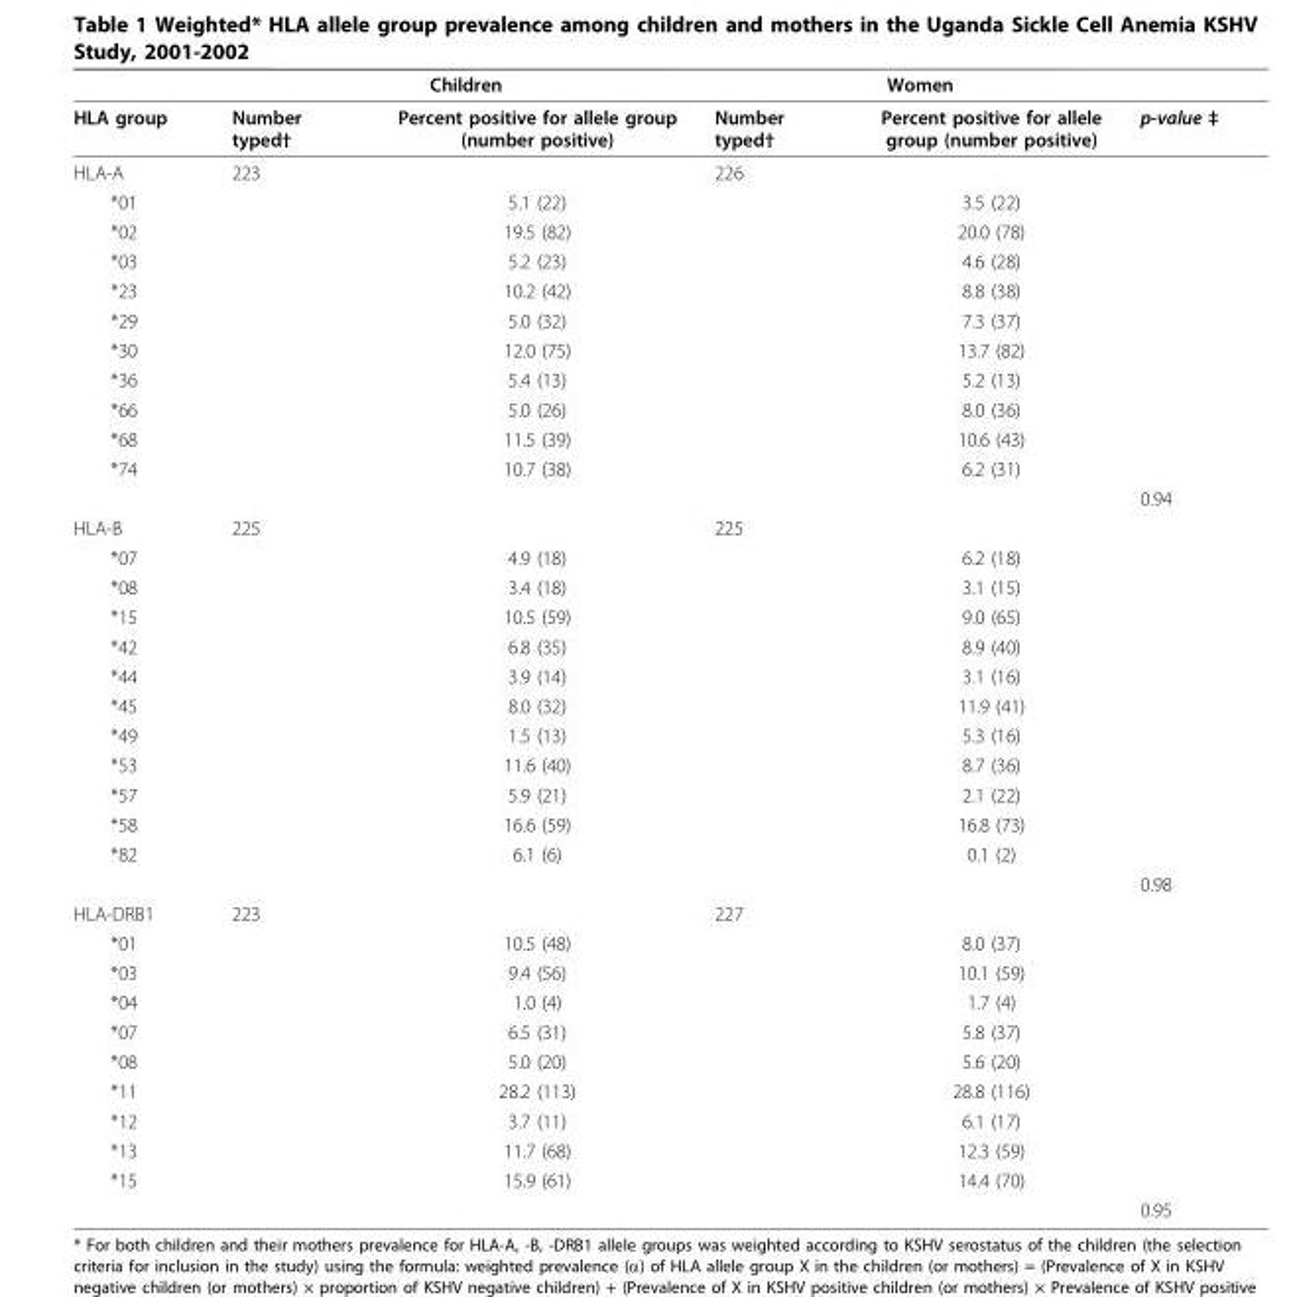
<table><thead><tr><td rowspan="2">HLA group</td><td colspan="2">Children</td><td colspan="2">Women</td><td rowspan="2">p-value ‡</td></tr><tr><td>Number typed†</td><td>Percent positive for allele group (number positive)</td><td>Number typed†</td><td>Percent positive for allele group (number positive)</td></tr></thead><tbody><tr><td>HLA-A</td><td>223</td><td></td><td>226</td><td></td><td></td></tr><tr><td>*01</td><td></td><td>5.1 (22)</td><td></td><td>3.5 (22)</td><td></td></tr><tr><td>*02</td><td></td><td>19.5 (82)</td><td></td><td>20.0 (78)</td><td></td></tr><tr><td>*03</td><td></td><td>5.2 (23)</td><td></td><td>4.6 (28)</td><td></td></tr><tr><td>*23</td><td></td><td>10.2 (42)</td><td></td><td>8.8 (38)</td><td></td></tr><tr><td>*29</td><td></td><td>5.0 (32)</td><td></td><td>7.3 (37)</td><td></td></tr><tr><td>*30</td><td></td><td>12.0 (75)</td><td></td><td>13.7 (82)</td><td></td></tr><tr><td>*36</td><td></td><td>5.4 (13)</td><td></td><td>5.2 (13)</td><td></td></tr><tr><td>*66</td><td></td><td>5.0 (26)</td><td></td><td>8.0 (36)</td><td></td></tr><tr><td>*68</td><td></td><td>11.5 (39)</td><td></td><td>10.6 (43)</td><td></td></tr><tr><td rowspan="2">*74</td><td></td><td>10.7 (38)</td><td></td><td>6.2 (31)</td><td></td></tr><tr><td></td><td></td><td></td><td></td><td>0.94</td></tr><tr><td>HLA-B</td><td>225</td><td></td><td>225</td><td></td><td></td></tr><tr><td>*07</td><td></td><td>4.9 (18)</td><td></td><td>6.2 (18)</td><td></td></tr><tr><td>*08</td><td></td><td>3.4 (18)</td><td></td><td>3.1 (15)</td><td></td></tr><tr><td>*15</td><td></td><td>10.5 (59)</td><td></td><td>9.0 (65)</td><td></td></tr><tr><td>*42</td><td></td><td>6.8 (35)</td><td></td><td>8.9 (40)</td><td></td></tr><tr><td>*44</td><td></td><td>3.9 (14)</td><td></td><td>3.1 (16)</td><td></td></tr><tr><td>*45</td><td></td><td>8.0 (32)</td><td></td><td>11.9 (41)</td><td></td></tr><tr><td>*49</td><td></td><td>1.5 (13)</td><td></td><td>5.3 (16)</td><td></td></tr><tr><td>*53</td><td></td><td>11.6 (40)</td><td></td><td>8.7 (36)</td><td></td></tr><tr><td>*57</td><td></td><td>5.9 (21)</td><td></td><td>2.1 (22)</td><td></td></tr><tr><td>*58</td><td></td><td>16.6 (59)</td><td></td><td>16.8 (73)</td><td></td></tr><tr><td rowspan="2">*82</td><td></td><td>6.1 (6)</td><td></td><td>0.1 (2)</td><td></td></tr><tr><td></td><td></td><td></td><td></td><td>0.98</td></tr><tr><td>HLA-DRB1</td><td>223</td><td></td><td>227</td><td></td><td></td></tr><tr><td>*01</td><td></td><td>10.5 (48)</td><td></td><td>8.0 (37)</td><td></td></tr><tr><td>*03</td><td></td><td>9.4 (56)</td><td></td><td>10.1 (59)</td><td></td></tr><tr><td>*04</td><td></td><td>1.0 (4)</td><td></td><td>1.7 (4)</td><td></td></tr><tr><td>*07</td><td></td><td>6.5 (31)</td><td></td><td>5.8 (37)</td><td></td></tr><tr><td>*08</td><td></td><td>5.0 (20)</td><td></td><td>5.6 (20)</td><td></td></tr><tr><td>*11</td><td></td><td>28.2 (113)</td><td></td><td>28.8 (116)</td><td></td></tr><tr><td>*12</td><td></td><td>3.7 (11)</td><td></td><td>6.1 (17)</td><td></td></tr><tr><td>*13</td><td></td><td>11.7 (68)</td><td></td><td>12.3 (59)</td><td></td></tr><tr><td rowspan="2">*15</td><td></td><td>15.9 (61)</td><td></td><td>14.4 (70)</td><td></td></tr><tr><td></td><td></td><td></td><td></td><td>0.95</td></tr></tbody></table>